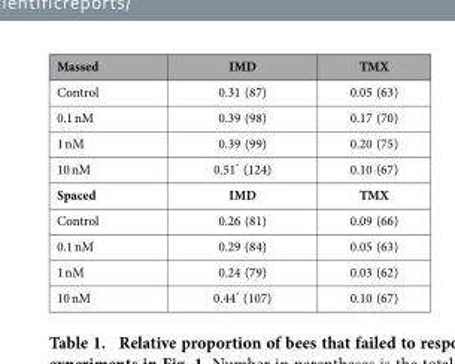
<table><thead><tr><td>Massed</td><td>IMD</td><td>TMX</td></tr></thead><tbody><tr><td>Control</td><td>0.31 (87)</td><td>0.05 (63)</td></tr><tr><td>0.1 nM</td><td>0.39 (98)</td><td>0.17 (70)</td></tr><tr><td>1 nM</td><td>0.39 (99)</td><td>0.20 (75)</td></tr><tr><td>10 nM</td><td>0.51* (124)</td><td>0.10 (67)</td></tr><tr><td>Spaced</td><td>IMD</td><td>TMX</td></tr><tr><td>Control</td><td>0.26 (81)</td><td>0.09 (66)</td></tr><tr><td>0.1 nM</td><td>0.29 (84)</td><td>0.05 (63)</td></tr><tr><td>1 nM</td><td>0.24 (79)</td><td>0.03 (62)</td></tr><tr><td>10 nM</td><td>0.44* (107)</td><td>0.10 (67)</td></tr></tbody></table>